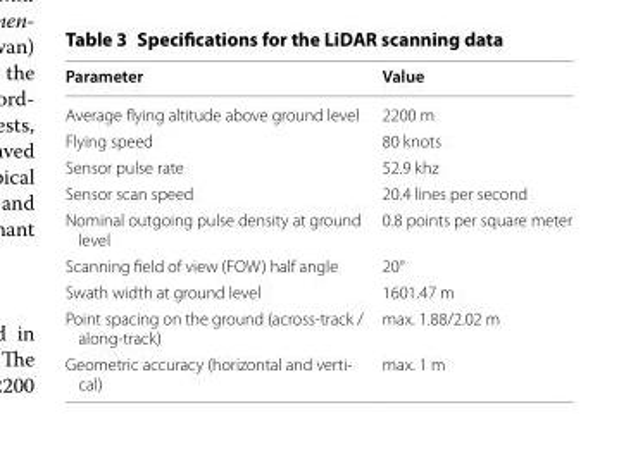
<table><thead><tr><td>Parameter</td><td>Value</td></tr></thead><tbody><tr><td>Average flying altitude above ground level</td><td>2200 m</td></tr><tr><td>Flying speed</td><td>80 knots</td></tr><tr><td>Sensor pulse rate</td><td>52.9 khz</td></tr><tr><td>Sensor scan speed</td><td>20.4 lines per second</td></tr><tr><td>Nominal outgoing pulse density at ground level</td><td>0.8 points per square meter</td></tr><tr><td>Scanning field of view (FOW) half angle</td><td>20°</td></tr><tr><td>Swath width at ground level</td><td>1601.47 m</td></tr><tr><td>Point spacing on the ground (across‑track / along‑track)</td><td>max. 1.88/2.02 m</td></tr><tr><td>Geometric accuracy (horizontal and verti‑ cal)</td><td>max. 1 m</td></tr></tbody></table>